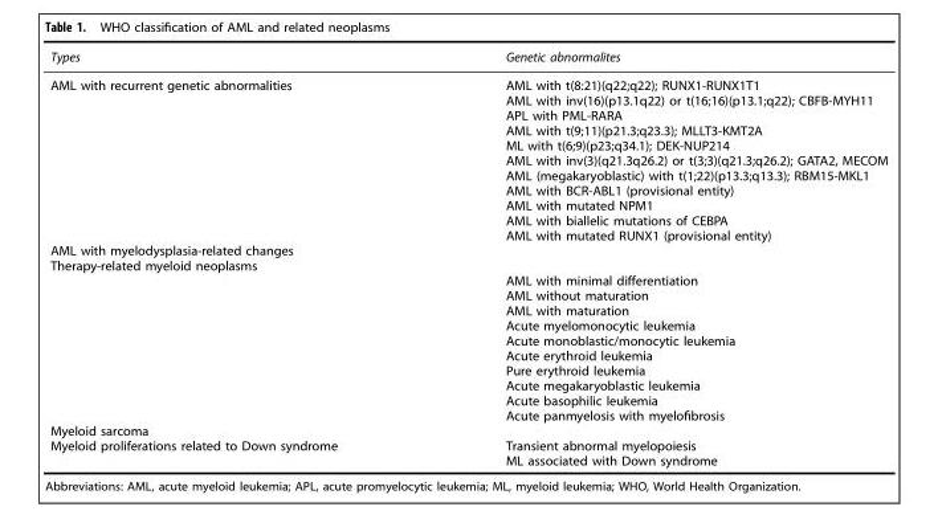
<table><thead><tr><td>Types</td><td>Genetic abnormalites</td></tr></thead><tbody><tr><td rowspan="11">AML with recurrent genetic abnormalities</td><td>AML with t(8:21)(q22;q22); RUNX1-RUNX1T1</td></tr><tr><td>AML with inv(16)(p13.1q22) or t(16;16)(p13.1;q22); CBFB-MYH11</td></tr><tr><td>APL with PML-RARA</td></tr><tr><td>AML with t(9;11)(p21.3;q23.3); MLLT3-KMT2A</td></tr><tr><td>ML with t(6;9)(p23;q34.1); DEK-NUP214</td></tr><tr><td>AML with inv(3)(q21.3q26.2) or t(3;3)(q21.3;q26.2); GATA2, MECOM</td></tr><tr><td>AML (megakaryoblastic) with t(1;22)(p13.3;q13.3); RBM15-MKL1</td></tr><tr><td>AML with BCR-ABL1 (provisional entity)</td></tr><tr><td>AML with mutated NPM1</td></tr><tr><td>AML with biallelic mutations of CEBPA</td></tr><tr><td>AML with mutated RUNX1 (provisional entity)</td></tr><tr><td colspan="2">AML with myelodysplasia-related changes</td></tr><tr><td colspan="2">Therapy-related myeloid neoplasms</td></tr><tr><td></td><td>AML with minimal differentiation</td></tr><tr><td></td><td>AML without maturation</td></tr><tr><td></td><td>AML with maturation</td></tr><tr><td></td><td>Acute myelomonocytic leukemia</td></tr><tr><td></td><td>Acute monoblastic/monocytic leukemia</td></tr><tr><td></td><td>Acute erythroid leukemia</td></tr><tr><td></td><td>Pure erythroid leukemia</td></tr><tr><td></td><td>Acute megakaryoblastic leukemia</td></tr><tr><td></td><td>Acute basophilic leukemia</td></tr><tr><td></td><td>Acute panmyelosis with myelofibrosis</td></tr><tr><td colspan="2">Myeloid sarcoma</td></tr><tr><td rowspan="2">Myeloid proliferations related to Down syndrome</td><td>Transient abnormal myelopoiesis</td></tr><tr><td>ML associated with Down syndrome</td></tr></tbody></table>